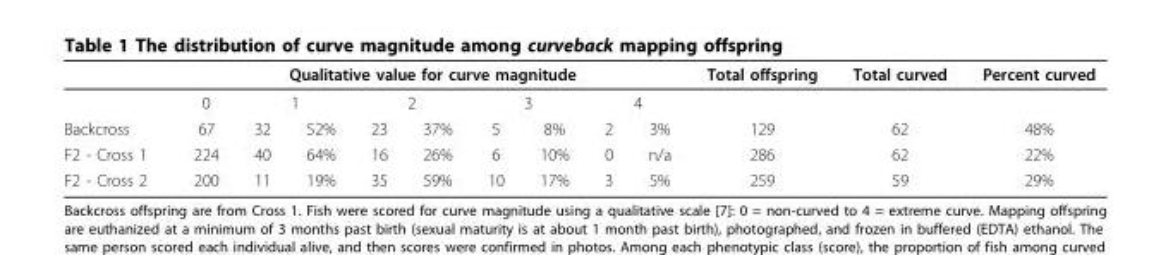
<table><thead><tr><td rowspan="3">Backcross</td><td colspan="9">Qualitative value for curve magnitude</td><td rowspan="3">Total offspring 129</td><td rowspan="3">Total curved 62</td><td rowspan="3">Percent curved 48%</td></tr><tr><td rowspan="2">0 67</td><td colspan="2">1</td><td colspan="2">2</td><td colspan="2">3</td><td colspan="2">4</td></tr><tr><td>32</td><td>52%</td><td>23</td><td>37%</td><td>5</td><td>8%</td><td>2</td><td>3%</td></tr></thead><tbody><tr><td>F2 - Cross 1</td><td>224</td><td>40</td><td>64%</td><td>16</td><td>26%</td><td>6</td><td>10%</td><td>0</td><td>n/a</td><td>286</td><td>62</td><td>22%</td></tr><tr><td>F2 - Cross 2</td><td>200</td><td>11</td><td>19%</td><td>35</td><td>59%</td><td>10</td><td>17%</td><td>3</td><td>5%</td><td>259</td><td>59</td><td>29%</td></tr></tbody></table>